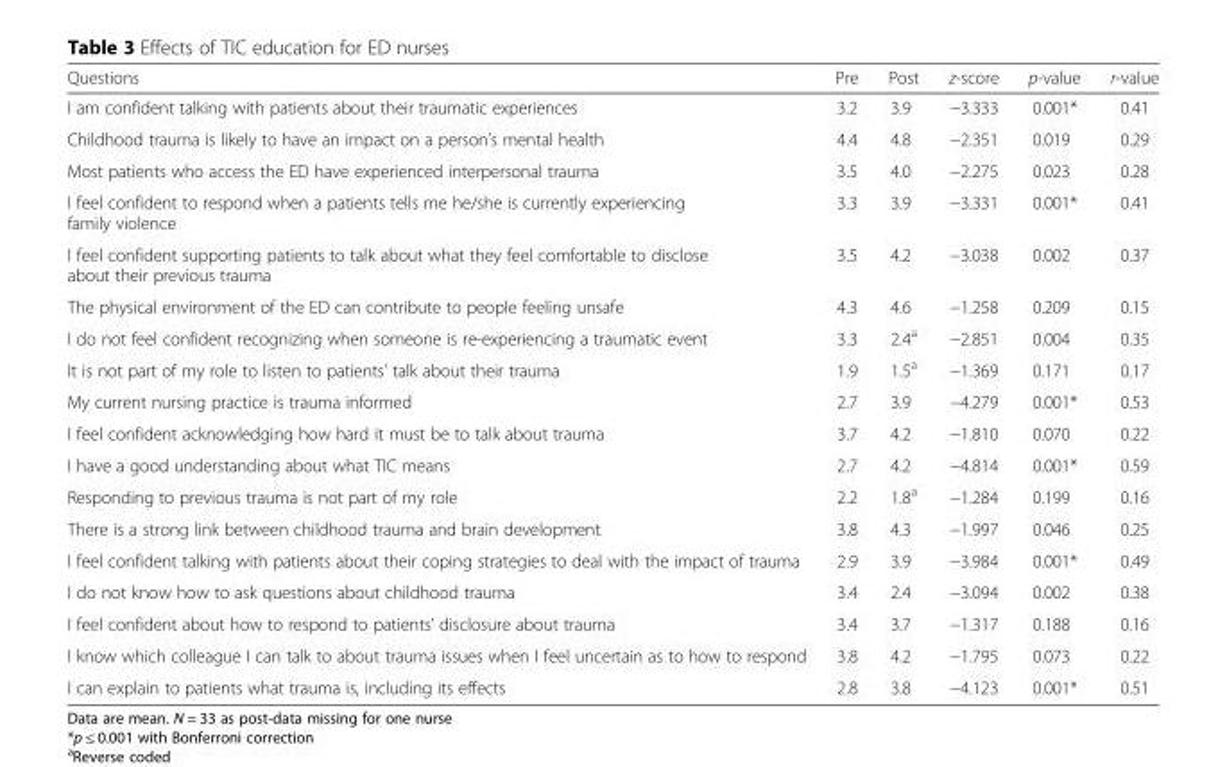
<table><thead><tr><td>Questions</td><td>Pre</td><td>Post</td><td>z-score</td><td>p-value</td><td>r-value</td></tr></thead><tbody><tr><td>I am confident talking with patients about their traumatic experiences</td><td>3.2</td><td>3.9</td><td>−3.333</td><td>0.001*</td><td>0.41</td></tr><tr><td>Childhood trauma is likely to have an impact on a person’s mental health</td><td>4.4</td><td>4.8</td><td>−2.351</td><td>0.019</td><td>0.29</td></tr><tr><td>Most patients who access the ED have experienced interpersonal trauma</td><td>3.5</td><td>4.0</td><td>−2.275</td><td>0.023</td><td>0.28</td></tr><tr><td>I feel confident to respond when a patients tells me he/she is currently experiencing family violence</td><td>3.3</td><td>3.9</td><td>−3.331</td><td>0.001*</td><td>0.41</td></tr><tr><td>I feel confident supporting patients to talk about what they feel comfortable to disclose about their previous trauma</td><td>3.5</td><td>4.2</td><td>−3.038</td><td>0.002</td><td>0.37</td></tr><tr><td>The physical environment of the ED can contribute to people feeling unsafe</td><td>4.3</td><td>4.6</td><td>−1.258</td><td>0.209</td><td>0.15</td></tr><tr><td>I do not feel confident recognizing when someone is re-experiencing a traumatic event</td><td>3.3</td><td>2.4<sup>a</sup></td><td>−2.851</td><td>0.004</td><td>0.35</td></tr><tr><td>It is not part of my role to listen to patients’ talk about their trauma</td><td>1.9</td><td>1.5<sup>a</sup></td><td>−1.369</td><td>0.171</td><td>0.17</td></tr><tr><td>My current nursing practice is trauma informed</td><td>2.7</td><td>3.9</td><td>−4.279</td><td>0.001*</td><td>0.53</td></tr><tr><td>I feel confident acknowledging how hard it must be to talk about trauma</td><td>3.7</td><td>4.2</td><td>−1.810</td><td>0.070</td><td>0.22</td></tr><tr><td>I have a good understanding about what TIC means</td><td>2.7</td><td>4.2</td><td>−4.814</td><td>0.001*</td><td>0.59</td></tr><tr><td>Responding to previous trauma is not part of my role</td><td>2.2</td><td>1.8<sup>a</sup></td><td>−1.284</td><td>0.199</td><td>0.16</td></tr><tr><td>There is a strong link between childhood trauma and brain development</td><td>3.8</td><td>4.3</td><td>−1.997</td><td>0.046</td><td>0.25</td></tr><tr><td>I feel confident talking with patients about their coping strategies to deal with the impact of trauma</td><td>2.9</td><td>3.9</td><td>−3.984</td><td>0.001*</td><td>0.49</td></tr><tr><td>I do not know how to ask questions about childhood trauma</td><td>3.4</td><td>2.4</td><td>−3.094</td><td>0.002</td><td>0.38</td></tr><tr><td>I feel confident about how to respond to patients’ disclosure about trauma</td><td>3.4</td><td>3.7</td><td>−1.317</td><td>0.188</td><td>0.16</td></tr><tr><td>I know which colleague I can talk to about trauma issues when I feel uncertain as to how to respond</td><td>3.8</td><td>4.2</td><td>−1.795</td><td>0.073</td><td>0.22</td></tr><tr><td>I can explain to patients what trauma is, including its effects</td><td>2.8</td><td>3.8</td><td>−4.123</td><td>0.001*</td><td>0.51</td></tr></tbody></table>